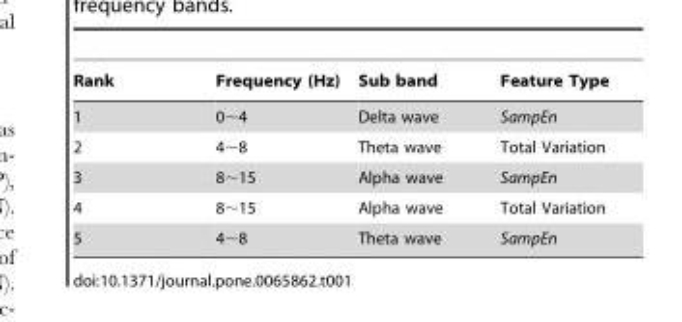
<table><thead><tr><td>Rank</td><td>Frequency (Hz)</td><td>Sub band</td><td>Feature Type</td></tr></thead><tbody><tr><td>1</td><td>0∼4</td><td>Delta wave</td><td>SampEn</td></tr><tr><td>2</td><td>4∼8</td><td>Theta wave</td><td>Total Variation</td></tr><tr><td>3</td><td>8∼15</td><td>Alpha wave</td><td>SampEn</td></tr><tr><td>4</td><td>8∼15</td><td>Alpha wave</td><td>Total Variation</td></tr><tr><td>5</td><td>4∼8</td><td>Theta wave</td><td>SampEn</td></tr></tbody></table>